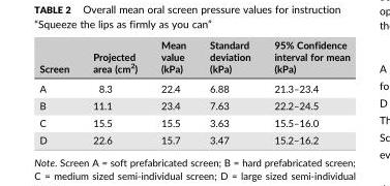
<table><thead><tr><td>Screen</td><td>Projected area (cm<sup>2</sup>)</td><td>Mean value (kPa)</td><td>Standard deviation (kPa)</td><td>95% Confidence interval for mean (kPa)</td></tr></thead><tbody><tr><td>A</td><td>8.3</td><td>22.4</td><td>6.88</td><td>21.3–23.4</td></tr><tr><td>B</td><td>11.1</td><td>23.4</td><td>7.63</td><td>22.2–24.5</td></tr><tr><td>C</td><td>15.5</td><td>15.5</td><td>3.63</td><td>15.5–16.0</td></tr><tr><td>D</td><td>22.6</td><td>15.7</td><td>3.47</td><td>15.2–16.2</td></tr></tbody></table>